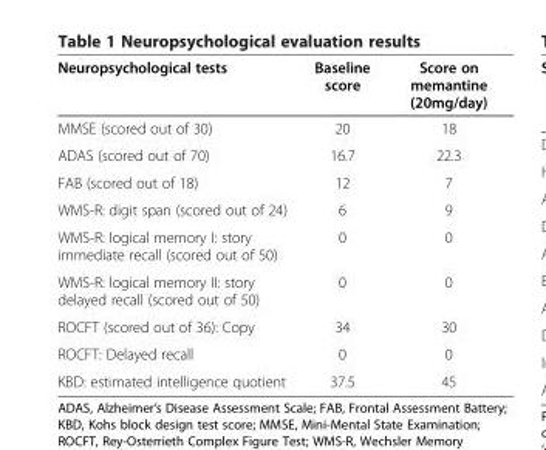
<table><thead><tr><td>Neuropsychological tests</td><td>Baseline score</td><td>Score on memantine (20mg/day)</td></tr></thead><tbody><tr><td>MMSE (scored out of 30)</td><td>20</td><td>18</td></tr><tr><td>ADAS (scored out of 70)</td><td>16.7</td><td>22.3</td></tr><tr><td>FAB (scored out of 18)</td><td>12</td><td>7</td></tr><tr><td>WMS-R: digit span (scored out of 24)</td><td>6</td><td>9</td></tr><tr><td>WMS-R: logical memory I: story immediate recall (scored out of 50)</td><td>0</td><td>0</td></tr><tr><td>WMS-R: logical memory II: story delayed recall (scored out of 50)</td><td>0</td><td>0</td></tr><tr><td>ROCFT (scored out of 36): Copy</td><td>34</td><td>30</td></tr><tr><td>ROCFT: Delayed recall</td><td>0</td><td>0</td></tr><tr><td>KBD: estimated intelligence quotient</td><td>37.5</td><td>45</td></tr></tbody></table>